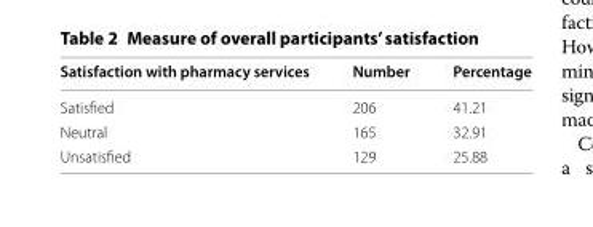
<table><thead><tr><td>Satisfaction with pharmacy services</td><td>Number</td><td>Percentage</td></tr></thead><tbody><tr><td>Satisfied</td><td>206</td><td>41.21</td></tr><tr><td>Neutral</td><td>165</td><td>32.91</td></tr><tr><td>Unsatisfied</td><td>129</td><td>25.88</td></tr></tbody></table>